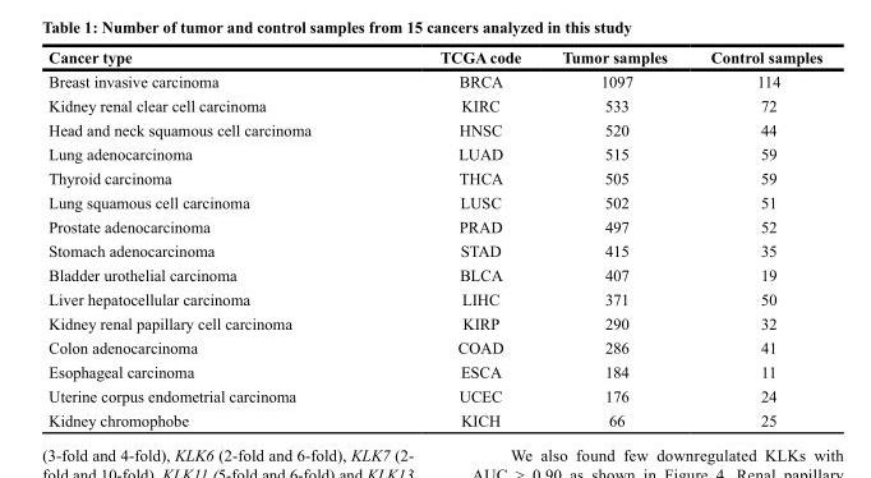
<table><thead><tr><td>Cancer type</td><td>TCGA code</td><td>Tumor samples</td><td>Control samples</td></tr></thead><tbody><tr><td>Breast invasive carcinoma</td><td>BRCA</td><td>1097</td><td>114</td></tr><tr><td>Kidney renal clear cell carcinoma</td><td>KIRC</td><td>533</td><td>72</td></tr><tr><td>Head and neck squamous cell carcinoma</td><td>HNSC</td><td>520</td><td>44</td></tr><tr><td>Lung adenocarcinoma</td><td>LUAD</td><td>515</td><td>59</td></tr><tr><td>Thyroid carcinoma</td><td>THCA</td><td>505</td><td>59</td></tr><tr><td>Lung squamous cell carcinoma</td><td>LUSC</td><td>502</td><td>51</td></tr><tr><td>Prostate adenocarcinoma</td><td>PRAD</td><td>497</td><td>52</td></tr><tr><td>Stomach adenocarcinoma</td><td>STAD</td><td>415</td><td>35</td></tr><tr><td>Bladder urothelial carcinoma</td><td>BLCA</td><td>407</td><td>19</td></tr><tr><td>Liver hepatocellular carcinoma</td><td>LIHC</td><td>371</td><td>50</td></tr><tr><td>Kidney renal papillary cell carcinoma</td><td>KIRP</td><td>290</td><td>32</td></tr><tr><td>Colon adenocarcinoma</td><td>COAD</td><td>286</td><td>41</td></tr><tr><td>Esophageal carcinoma</td><td>ESCA</td><td>184</td><td>11</td></tr><tr><td>Uterine corpus endometrial carcinoma</td><td>UCEC</td><td>176</td><td>24</td></tr><tr><td>Kidney chromophobe</td><td>KICH</td><td>66</td><td>25</td></tr></tbody></table>